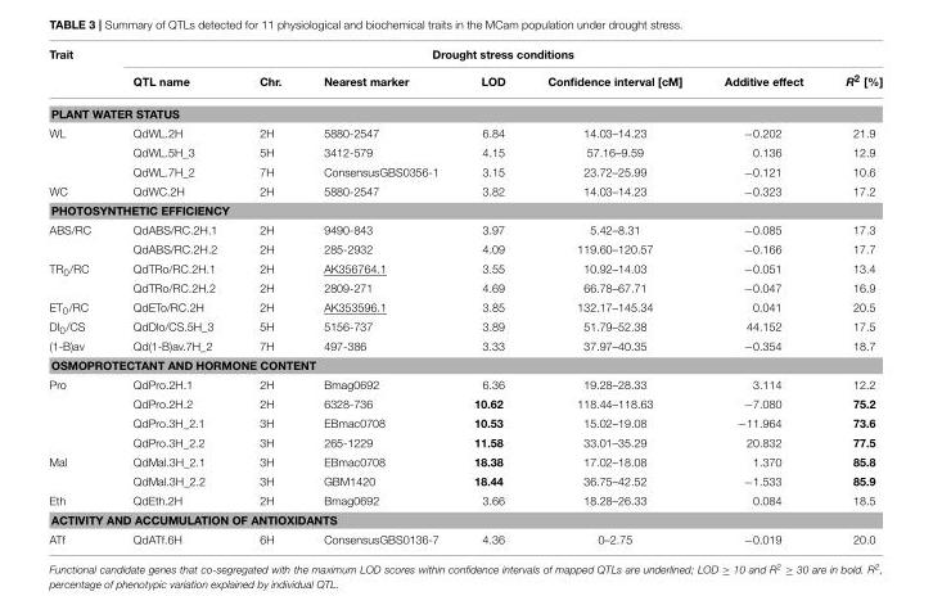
<table><thead><tr><td rowspan="2">Trait</td><td colspan="7">Drought stress conditions</td></tr><tr><td>QTL name</td><td>Chr.</td><td>Nearest marker</td><td>LOD</td><td>Confidence interval [cM]</td><td>Additive effect</td><td>R<sup>2</sup> [%]</td></tr></thead><tbody><tr><td colspan="8">PLANT WATER STATUS</td></tr><tr><td rowspan="3">WL</td><td>QdWL.2H</td><td>2H</td><td>5880-2547</td><td>6.84</td><td>14.03–14.23</td><td>−0.202</td><td>21.9</td></tr><tr><td>QdWL.5H_3</td><td>5H</td><td>3412-579</td><td>4.15</td><td>57.16–9.59</td><td>0.136</td><td>12.9</td></tr><tr><td>QdWL.7H_2</td><td>7H</td><td>ConsensusGBS0356-1</td><td>3.15</td><td>23.72–25.99</td><td>−0.121</td><td>10.6</td></tr><tr><td>WC</td><td>QdWC.2H</td><td>2H</td><td>5880-2547</td><td>3.82</td><td>14.03–14.23</td><td>−0.323</td><td>17.2</td></tr><tr><td colspan="8">PHOTOSYNTHETIC EFFICIENCY</td></tr><tr><td rowspan="2">ABS/RC</td><td>QdABS/RC.2H.1</td><td>2H</td><td>9490-843</td><td>3.97</td><td>5.42–8.31</td><td>−0.085</td><td>17.3</td></tr><tr><td>QdABS/RC.2H.2</td><td>2H</td><td>285-2932</td><td>4.09</td><td>119.60–120.57</td><td>−0.166</td><td>17.7</td></tr><tr><td rowspan="2">TR<sub>0</sub>/RC</td><td>QdTRo/RC.2H.1</td><td>2H</td><td>AK356764.1</td><td>3.55</td><td>10.92–14.03</td><td>−0.051</td><td>13.4</td></tr><tr><td>QdTRo/RC.2H.2</td><td>2H</td><td>2809-271</td><td>4.69</td><td>66.78–67.71</td><td>−0.047</td><td>16.9</td></tr><tr><td>ET<sub>0</sub>/RC</td><td>QdETo/RC.2H</td><td>2H</td><td>AK353596.1</td><td>3.85</td><td>132.17–145.34</td><td>0.041</td><td>20.5</td></tr><tr><td>DI<sub>0</sub>/CS</td><td>QdDlo/CS.5H_3</td><td>5H</td><td>5156-737</td><td>3.89</td><td>51.79–52.38</td><td>44.152</td><td>17.5</td></tr><tr><td>(1-B)av</td><td>Qd(1-B)av.7H_2</td><td>7H</td><td>497-386</td><td>3.33</td><td>37.97–40.35</td><td>−0.354</td><td>18.7</td></tr><tr><td colspan="8">OSMOPROTECTANT AND HORMONE CONTENT</td></tr><tr><td rowspan="4">Pro</td><td>QdPro.2H.1</td><td>2H</td><td>Bmag0692</td><td>6.36</td><td>19.28–28.33</td><td>3.114</td><td>12.2</td></tr><tr><td>QdPro.2H.2</td><td>2H</td><td>6328-736</td><td>10.62</td><td>118.44–118.63</td><td>−7.080</td><td>75.2</td></tr><tr><td>QdPro.3H_2.1</td><td>3H</td><td>EBmac0708</td><td>10.53</td><td>15.02–19.08</td><td>−11.964</td><td>73.6</td></tr><tr><td>QdPro.3H_2.2</td><td>3H</td><td>265-1229</td><td>11.58</td><td>33.01–35.29</td><td>20.832</td><td>77.5</td></tr><tr><td rowspan="2">Mal</td><td>QdMal.3H_2.1</td><td>3H</td><td>EBmac0708</td><td>18.38</td><td>17.02–18.08</td><td>1.370</td><td>85.8</td></tr><tr><td>QdMal.3H_2.2</td><td>3H</td><td>GBM1420</td><td>18.44</td><td>36.75–42.52</td><td>−1.533</td><td>85.9</td></tr><tr><td>Eth</td><td>QdEth.2H</td><td>2H</td><td>Bmag0692</td><td>3.66</td><td>18.28–26.33</td><td>0.084</td><td>18.5</td></tr><tr><td colspan="8">ACTIVITY AND ACCUMULATION OF ANTIOXIDANTS</td></tr><tr><td>ATf</td><td>QdATf.6H</td><td>6H</td><td>ConsensusGBS0136-7</td><td>4.36</td><td>0–2.75</td><td>−0.019</td><td>20.0</td></tr></tbody></table>